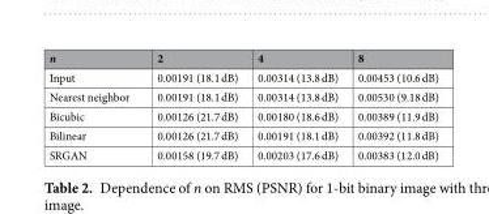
<table><thead><tr><td>n</td><td>2</td><td>4</td><td>8</td></tr></thead><tbody><tr><td>Input</td><td>0.00191 (18.1 dB)</td><td>0.00314 (13.8 dB)</td><td>0.00453 (10.6 dB)</td></tr><tr><td>Nearest neighbor</td><td>0.00191 (18.1 dB)</td><td>0.00314 (13.8 dB)</td><td>0.00530 (9.18 dB)</td></tr><tr><td>Bicubic</td><td>0.00126 (21.7 dB)</td><td>0.00180 (18.6 dB)</td><td>0.00389 (11.9 dB)</td></tr><tr><td>Bilinear</td><td>0.00126 (21.7 dB)</td><td>0.00191 (18.1 dB)</td><td>0.00392 (11.8 dB)</td></tr><tr><td>SRGAN</td><td>0.00158 (19.7 dB)</td><td>0.00203 (17.6 dB)</td><td>0.00383 (12.0 dB)</td></tr></tbody></table>